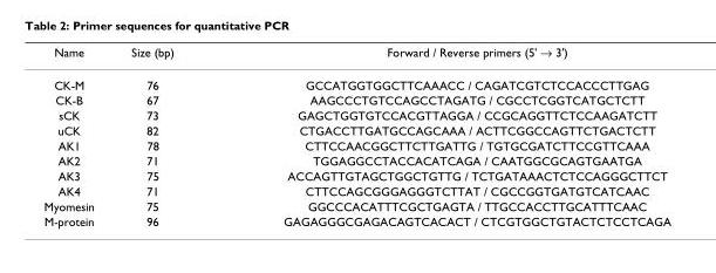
<table><thead><tr><td>Name</td><td>Size (bp)</td><td>Forward / Reverse primers (5&#x27; → 3&#x27;)</td></tr></thead><tbody><tr><td>CK-M</td><td>76</td><td>GCCATGGTGGCTTCAAACC / CAGATCGTCTCCACCCTTGAG</td></tr><tr><td>CK-B</td><td>67</td><td>AAGCCCTGTCCAGCCTAGATG / CGCCTCGGTCATGCTCTT</td></tr><tr><td>sCK</td><td>73</td><td>GAGCTGGTGTCCACGTTAGGA / CCGCAGGTTCTCCAAGATCTT</td></tr><tr><td>uCK</td><td>82</td><td>CTGACCTTGATGCCAGCAAA / ACTTCGGCCAGTTCTGACTCTT</td></tr><tr><td>AK1</td><td>78</td><td>CTTCCAACGGCTTCTTGATTG / TGTGCGATCTTCCGTTCAAA</td></tr><tr><td>AK2</td><td>71</td><td>TGGAGGCCTACCACATCAGA / CAATGGCGCAGTGAATGA</td></tr><tr><td>AK3</td><td>75</td><td>ACCAGTTGTAGCTGGCTGTTG / TCTGATAAACTCTCCAGGGCTTCT</td></tr><tr><td>AK4</td><td>71</td><td>CTTCCAGCGGGAGGGTCTTAT / CGCCGGTGATGTCATCAAC</td></tr><tr><td>Myomesin</td><td>75</td><td>GGCCCACATTTCGCTGAGTA / TTGCCACCTTGCATTTCAAC</td></tr><tr><td>M-protein</td><td>96</td><td>GAGAGGGCGAGACAGTCACACT / CTCGTGGCTGTACTCTCCTCAGA</td></tr></tbody></table>